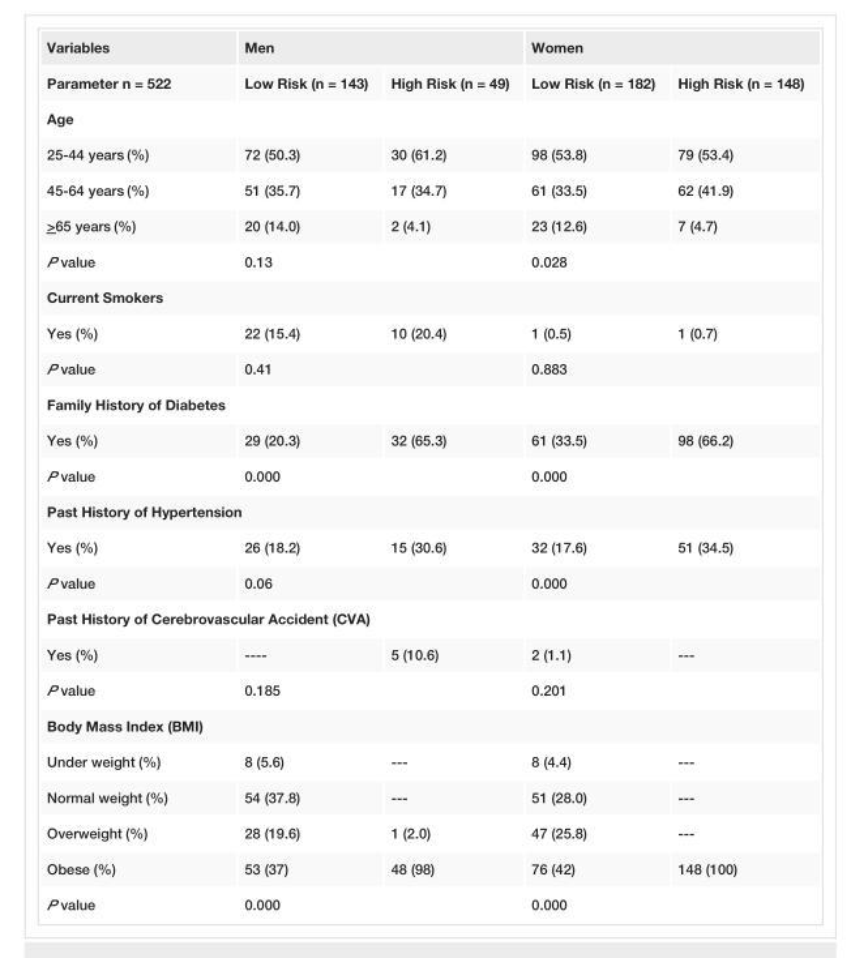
<table><tbody><tr><td>Variables</td><td colspan="2">Men</td><td colspan="2">Women</td></tr><tr><td>Parameter n = 522</td><td>Low Risk (n = 143)</td><td>High Risk (n = 49)</td><td>Low Risk (n = 182)</td><td>High Risk (n = 148)</td></tr><tr><td colspan="5">Age</td></tr><tr><td>25-44 years (%)</td><td>72 (50.3)</td><td>30 (61.2)</td><td>98 (53.8)</td><td>79 (53.4)</td></tr><tr><td>45-64 years (%)</td><td>51 (35.7)</td><td>17 (34.7)</td><td>61 (33.5)</td><td>62 (41.9)</td></tr><tr><td>&gt;65 years (%)</td><td>20 (14.0)</td><td>2 (4.1)</td><td>23 (12.6)</td><td>7 (4.7)</td></tr><tr><td>P value</td><td colspan="2">0.13</td><td colspan="2">0.028</td></tr><tr><td colspan="5">Current Smokers</td></tr><tr><td>Yes (%)</td><td>22 (15.4)</td><td>10 (20.4)</td><td>1 (0.5)</td><td>1 (0.7)</td></tr><tr><td>P value</td><td colspan="2">0.41</td><td colspan="2">0.883</td></tr><tr><td colspan="5">Family History of Diabetes</td></tr><tr><td>Yes (%)</td><td>29 (20.3)</td><td>32 (65.3)</td><td>61 (33.5)</td><td>98 (66.2)</td></tr><tr><td>P value</td><td colspan="2">0.000</td><td colspan="2">0.000</td></tr><tr><td colspan="5">Past History of Hypertension</td></tr><tr><td>Yes (%)</td><td>26 (18.2)</td><td>15 (30.6)</td><td>32 (17.6)</td><td>51 (34.5)</td></tr><tr><td>P value</td><td colspan="2">0.06</td><td colspan="2">0.000</td></tr><tr><td colspan="5">Past History of Cerebrovascular Accident (CVA)</td></tr><tr><td>Yes (%)</td><td>----</td><td>5 (10.6)</td><td>2 (1.1)</td><td>---</td></tr><tr><td>P value</td><td colspan="2">0.185</td><td colspan="2">0.201</td></tr><tr><td colspan="5">Body Mass Index (BMI)</td></tr><tr><td>Under weight (%)</td><td>8 (5.6)</td><td>---</td><td>8 (4.4)</td><td>---</td></tr><tr><td>Normal weight (%)</td><td>54 (37.8)</td><td>---</td><td>51 (28.0)</td><td>---</td></tr><tr><td>Overweight (%)</td><td>28 (19.6)</td><td>1 (2.0)</td><td>47 (25.8)</td><td>---</td></tr><tr><td>Obese (%)</td><td>53 (37)</td><td>48 (98)</td><td>76 (42)</td><td>148 (100)</td></tr><tr><td>P value</td><td colspan="2">0.000</td><td colspan="2">0.000</td></tr></tbody></table>